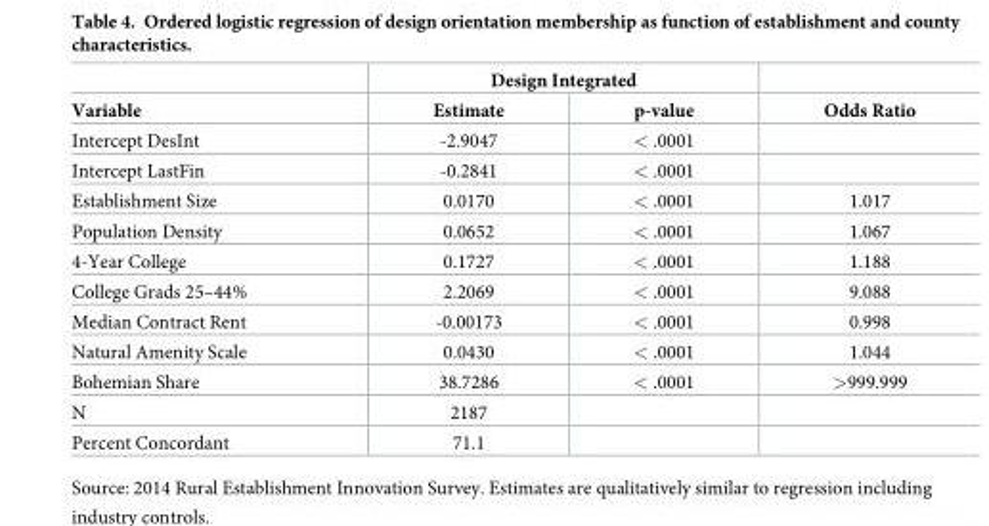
<table><thead><tr><td rowspan="2">Variable</td><td colspan="2">Design Integrated</td><td rowspan="2">Odds Ratio</td></tr><tr><td>Estimate</td><td>p-value</td></tr></thead><tbody><tr><td>Intercept DesInt</td><td>-2.9047</td><td>&lt; .0001</td><td></td></tr><tr><td>Intercept LastFin</td><td>-0.2841</td><td>&lt; .0001</td><td></td></tr><tr><td>Establishment Size</td><td>0.0170</td><td>&lt; .0001</td><td>1.017</td></tr><tr><td>Population Density</td><td>0.0652</td><td>&lt; .0001</td><td>1.067</td></tr><tr><td>4-Year College</td><td>0.1727</td><td>&lt; .0001</td><td>1.188</td></tr><tr><td>College Grads 25–44%</td><td>2.2069</td><td>&lt; .0001</td><td>9.088</td></tr><tr><td>Median Contract Rent</td><td>-0.00173</td><td>&lt; .0001</td><td>0.998</td></tr><tr><td>Natural Amenity Scale</td><td>0.0430</td><td>&lt; .0001</td><td>1.044</td></tr><tr><td>Bohemian Share</td><td>38.7286</td><td>&lt; .0001</td><td>&gt;999.999</td></tr><tr><td>N</td><td>2187</td><td></td><td></td></tr><tr><td>Percent Concordant</td><td>71.1</td><td></td><td></td></tr></tbody></table>